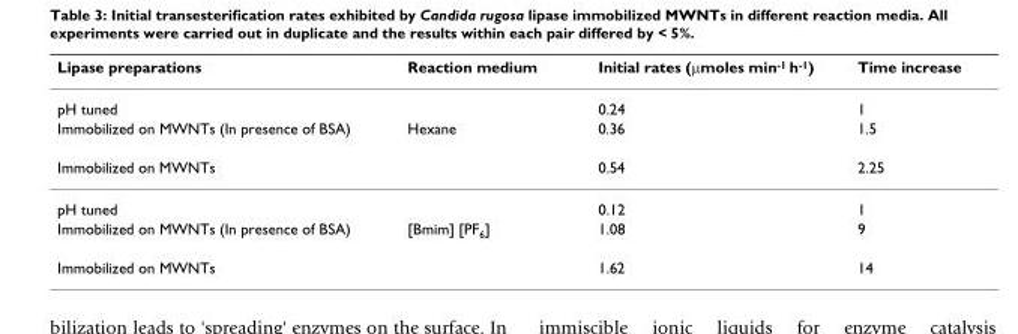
<table><thead><tr><td>Lipase preparations</td><td>Reaction medium</td><td>Initial rates (μmoles min<sup>-1</sup> h<sup>-1</sup>)</td><td>Time increase</td></tr></thead><tbody><tr><td>pH tuned</td><td></td><td>0.24</td><td>1</td></tr><tr><td>Immobilized on MWNTs (In presence of BSA)</td><td>Hexane</td><td>0.36</td><td>1.5</td></tr><tr><td>Immobilized on MWNTs</td><td></td><td>0.54</td><td>2.25</td></tr><tr><td>pH tuned</td><td></td><td>0.12</td><td>1</td></tr><tr><td>Immobilized on MWNTs (In presence of BSA)</td><td>[Bmim] [PF<sub>6</sub>]</td><td>1.08</td><td>9</td></tr><tr><td>Immobilized on MWNTs</td><td></td><td>1.62</td><td>14</td></tr></tbody></table>